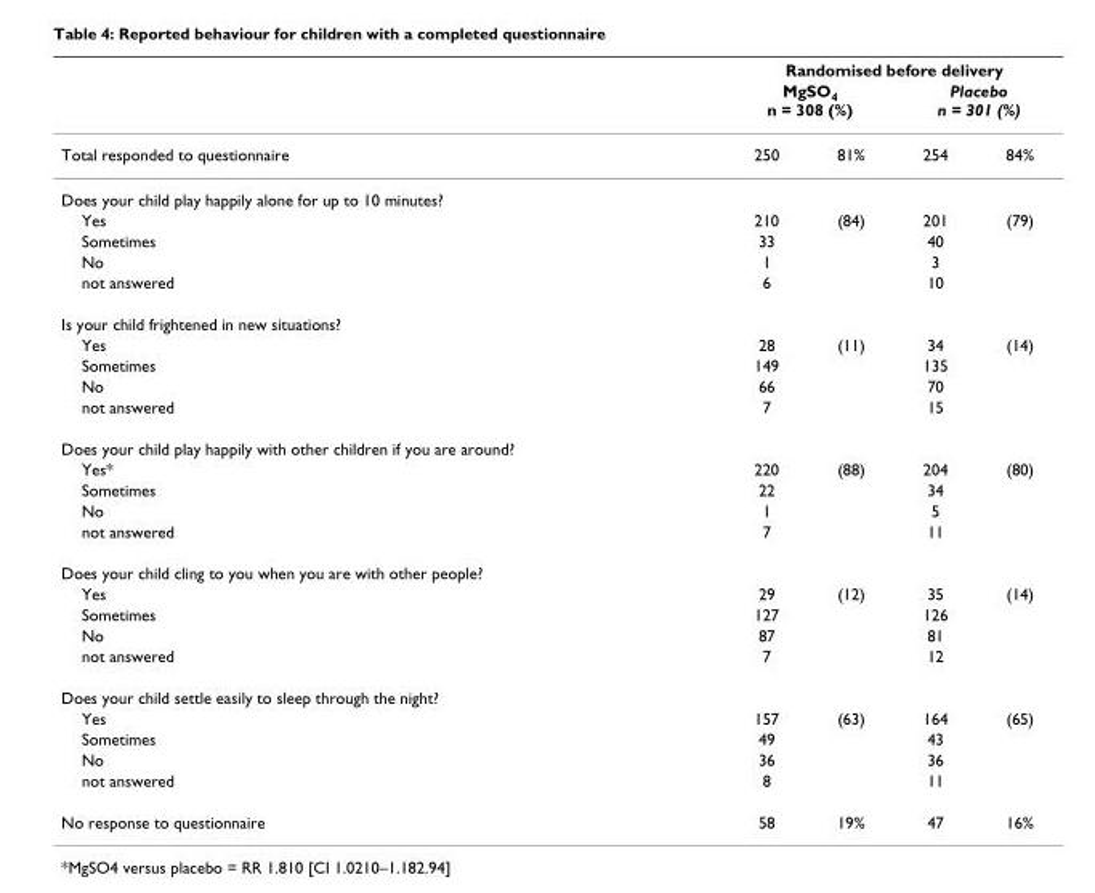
<table><thead><tr><td rowspan="3">Total responded to questionnaire</td><td colspan="4">Randomised before delivery</td></tr><tr><td colspan="2">MgSO<sub>4</sub> n = 308 (%)</td><td colspan="2">Placebo n = 301 (%)</td></tr><tr><td>250</td><td>81%</td><td>254</td><td>84%</td></tr></thead><tbody><tr><td colspan="5">Does your child play happily alone for up to 10 minutes?</td></tr><tr><td>Yes</td><td>210</td><td>(84)</td><td>201</td><td>(79)</td></tr><tr><td>Sometimes</td><td>33</td><td></td><td>40</td><td></td></tr><tr><td>No</td><td>1</td><td></td><td>3</td><td></td></tr><tr><td>not answered</td><td>6</td><td></td><td>10</td><td></td></tr><tr><td colspan="5">Is your child frightened in new situations?</td></tr><tr><td>Yes</td><td>28</td><td>(11)</td><td>34</td><td>(14)</td></tr><tr><td>Sometimes</td><td>149</td><td></td><td>135</td><td></td></tr><tr><td>No</td><td>66</td><td></td><td>70</td><td></td></tr><tr><td>not answered</td><td>7</td><td></td><td>15</td><td></td></tr><tr><td colspan="5">Does your child play happily with other children if you are around?</td></tr><tr><td>Yes*</td><td>220</td><td>(88)</td><td>204</td><td>(80)</td></tr><tr><td>Sometimes</td><td>22</td><td></td><td>34</td><td></td></tr><tr><td>No</td><td>1</td><td></td><td>5</td><td></td></tr><tr><td>not answered</td><td>7</td><td></td><td>11</td><td></td></tr><tr><td colspan="5">Does your child cling to you when you are with other people?</td></tr><tr><td>Yes</td><td>29</td><td>(12)</td><td>35</td><td>(14)</td></tr><tr><td>Sometimes</td><td>127</td><td></td><td>126</td><td></td></tr><tr><td>No</td><td>87</td><td></td><td>81</td><td></td></tr><tr><td>not answered</td><td>7</td><td></td><td>12</td><td></td></tr><tr><td colspan="5">Does your child settle easily to sleep through the night?</td></tr><tr><td>Yes</td><td>157</td><td>(63)</td><td>164</td><td>(65)</td></tr><tr><td>Sometimes</td><td>49</td><td></td><td>43</td><td></td></tr><tr><td>No</td><td>36</td><td></td><td>36</td><td></td></tr><tr><td>not answered</td><td>8</td><td></td><td>11</td><td></td></tr><tr><td>No response to questionnaire</td><td>58</td><td>19%</td><td>47</td><td>16%</td></tr></tbody></table>